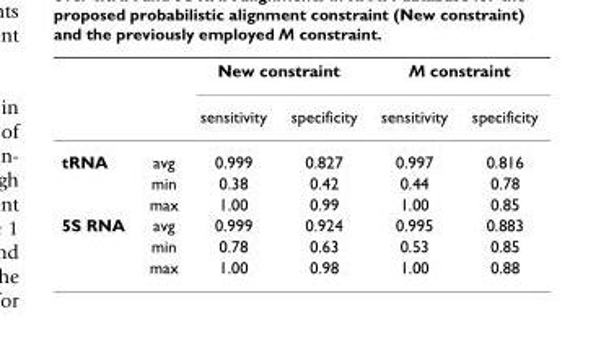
<table><thead><tr><td rowspan="2"></td><td rowspan="2"></td><td colspan="2">New constraint</td><td colspan="2">M constraint</td></tr><tr><td>sensitivity</td><td>specificity</td><td>sensitivity</td><td>specificity</td></tr></thead><tbody><tr><td rowspan="3">tRNA</td><td>avg</td><td>0.999</td><td>0.827</td><td>0.997</td><td>0.816</td></tr><tr><td>min</td><td>0.38</td><td>0.42</td><td>0.44</td><td>0.78</td></tr><tr><td>max</td><td>1.00</td><td>0.99</td><td>1.00</td><td>0.85</td></tr><tr><td rowspan="3">5S RNA</td><td>avg</td><td>0.999</td><td>0.924</td><td>0.995</td><td>0.883</td></tr><tr><td>min</td><td>0.78</td><td>0.63</td><td>0.53</td><td>0.85</td></tr><tr><td>max</td><td>1.00</td><td>0.98</td><td>1.00</td><td>0.88</td></tr></tbody></table>